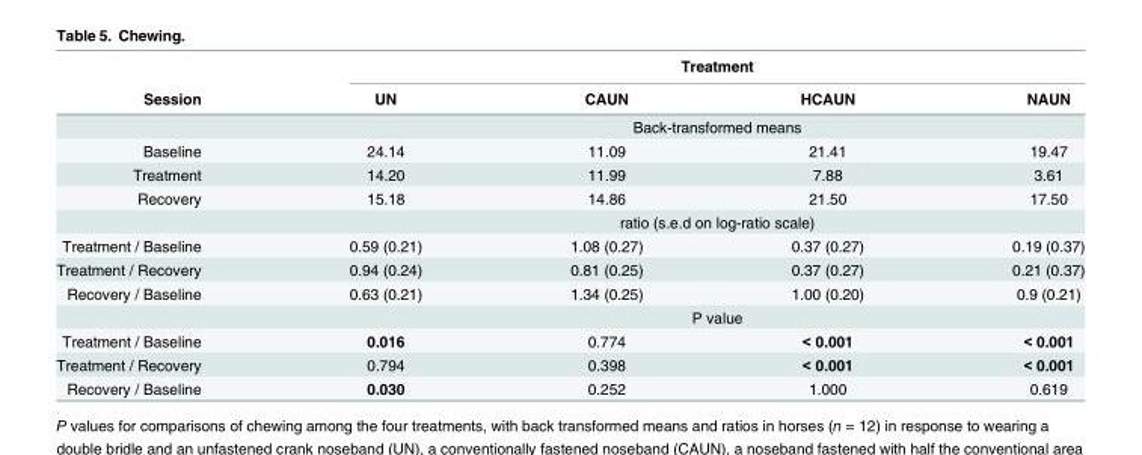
<table><thead><tr><td rowspan="2">Session</td><td colspan="4">Treatment</td></tr><tr><td>UN</td><td>CAUN</td><td>HCAUN</td><td>NAUN</td></tr></thead><tbody><tr><td></td><td colspan="4">Back-transformed means</td></tr><tr><td>Baseline</td><td>24.14</td><td>11.09</td><td>21.41</td><td>19.47</td></tr><tr><td>Treatment</td><td>14.20</td><td>11.99</td><td>7.88</td><td>3.61</td></tr><tr><td rowspan="2">Recovery</td><td>15.18</td><td>14.86</td><td>21.50</td><td>17.50</td></tr><tr><td colspan="4">ratio (s.e.d on log-ratio scale)</td></tr><tr><td>Treatment / Baseline</td><td>0.59 (0.21)</td><td>1.08 (0.27)</td><td>0.37 (0.27)</td><td>0.19 (0.37)</td></tr><tr><td>Treatment / Recovery</td><td>0.94 (0.24)</td><td>0.81 (0.25)</td><td>0.37 (0.27)</td><td>0.21 (0.37)</td></tr><tr><td rowspan="2">Recovery / Baseline</td><td>0.63 (0.21)</td><td>1.34 (0.25)</td><td>1.00 (0.20)</td><td>0.9 (0.21)</td></tr><tr><td colspan="4">P value</td></tr><tr><td>Treatment / Baseline</td><td>0.016</td><td>0.774</td><td>&lt; 0.001</td><td>&lt; 0.001</td></tr><tr><td>Treatment / Recovery</td><td>0.794</td><td>0.398</td><td>&lt; 0.001</td><td>&lt; 0.001</td></tr><tr><td>Recovery / Baseline</td><td>0.030</td><td>0.252</td><td>1.000</td><td>0.619</td></tr></tbody></table>